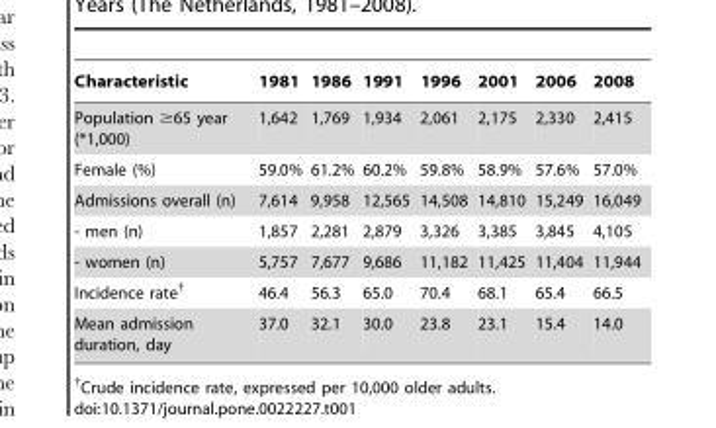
<table><thead><tr><td>Characteristic</td><td>1981</td><td>1986</td><td>1991</td><td>1996</td><td>2001</td><td>2006</td><td>2008</td></tr></thead><tbody><tr><td>Population ≥65 year (*1,000)</td><td>1,642</td><td>1,769</td><td>1,934</td><td>2,061</td><td>2,175</td><td>2,330</td><td>2,415</td></tr><tr><td>Female (%)</td><td>59.0%</td><td>61.2%</td><td>60.2%</td><td>59.8%</td><td>58.9%</td><td>57.6%</td><td>57.0%</td></tr><tr><td>Admissions overall (n)</td><td>7,614</td><td>9,958</td><td>12,565</td><td>14,508</td><td>14,810</td><td>15,249</td><td>16,049</td></tr><tr><td>- men (n)</td><td>1,857</td><td>2,281</td><td>2,879</td><td>3,326</td><td>3,385</td><td>3,845</td><td>4,105</td></tr><tr><td>- women (n)</td><td>5,757</td><td>7,677</td><td>9,686</td><td>11,182</td><td>11,425</td><td>11,404</td><td>11,944</td></tr><tr><td>Incidence rate†</td><td>46.4</td><td>56.3</td><td>65.0</td><td>70.4</td><td>68.1</td><td>65.4</td><td>66.5</td></tr><tr><td>Mean admission duration, day</td><td>37.0</td><td>32.1</td><td>30.0</td><td>23.8</td><td>23.1</td><td>15.4</td><td>14.0</td></tr></tbody></table>